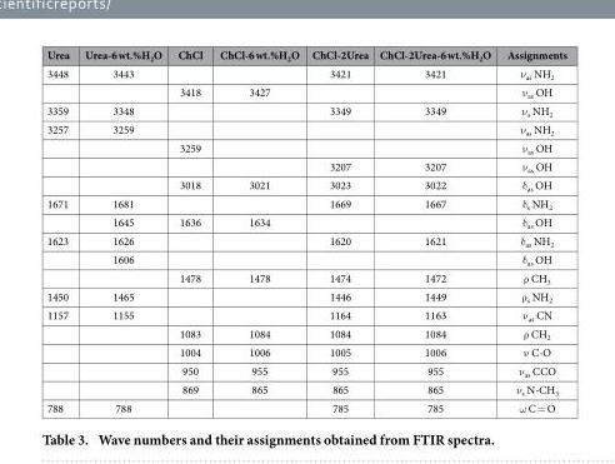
<table><thead><tr><td>Urea</td><td>Urea-6 wt.%H<sub>2</sub>O</td><td>ChCl</td><td>ChCl-6 wt.%H<sub>2</sub>O</td><td>ChCl-2Urea</td><td>ChCl-2Urea-6 wt.%H<sub>2</sub>O</td><td>Assignments</td></tr></thead><tbody><tr><td rowspan="2">3448</td><td>3443</td><td></td><td></td><td>3421</td><td>3421</td><td>ν <sub>as</sub> NH<sub>2</sub></td></tr><tr><td></td><td>3418</td><td>3427</td><td></td><td></td><td>ν<sub>as</sub> OH</td></tr><tr><td>3359</td><td>3348</td><td></td><td></td><td>3349</td><td>3349</td><td>ν<sub>s</sub> NH<sub>2</sub></td></tr><tr><td rowspan="4">3257</td><td>3259</td><td></td><td></td><td></td><td></td><td>ν<sub>as</sub> NH<sub>2</sub></td></tr><tr><td></td><td>3259</td><td></td><td></td><td></td><td>ν<sub>as</sub> OH</td></tr><tr><td></td><td></td><td></td><td>3207</td><td>3207</td><td>ν<sub>as</sub> OH</td></tr><tr><td></td><td>3018</td><td>3021</td><td>3023</td><td>3022</td><td>δ<sub>as</sub> OH</td></tr><tr><td rowspan="2">1671</td><td>1681</td><td></td><td></td><td>1669</td><td>1667</td><td>δ<sub>s</sub> NH<sub>2</sub></td></tr><tr><td>1645</td><td>1636</td><td>1634</td><td></td><td></td><td>δ<sub>as</sub> OH</td></tr><tr><td rowspan="3">1623</td><td>1626</td><td></td><td></td><td>1620</td><td>1621</td><td>δ<sub>as</sub> NH<sub>2</sub></td></tr><tr><td>1606</td><td></td><td></td><td></td><td></td><td>δ<sub>as</sub> OH</td></tr><tr><td></td><td>1478</td><td>1478</td><td>1474</td><td>1472</td><td>ρ CH<sub>3</sub></td></tr><tr><td>1450</td><td>1465</td><td></td><td></td><td>1446</td><td>1449</td><td>ρ<sub>s</sub> NH<sub>2</sub></td></tr><tr><td rowspan="5">1157</td><td>1155</td><td></td><td></td><td>1164</td><td>1163</td><td>ν<sub>as</sub> CN</td></tr><tr><td></td><td>1083</td><td>1084</td><td>1084</td><td>1084</td><td>ρ CH<sub>2</sub></td></tr><tr><td></td><td>1004</td><td>1006</td><td>1005</td><td>1006</td><td>ν C-O</td></tr><tr><td></td><td>950</td><td>955</td><td>955</td><td>955</td><td>ν<sub>as</sub> CCO</td></tr><tr><td></td><td>869</td><td>865</td><td>865</td><td>865</td><td>ν<sub>s</sub> N-CH<sub>3</sub></td></tr><tr><td>788</td><td>788</td><td></td><td></td><td>785</td><td>785</td><td>ω C = O</td></tr></tbody></table>